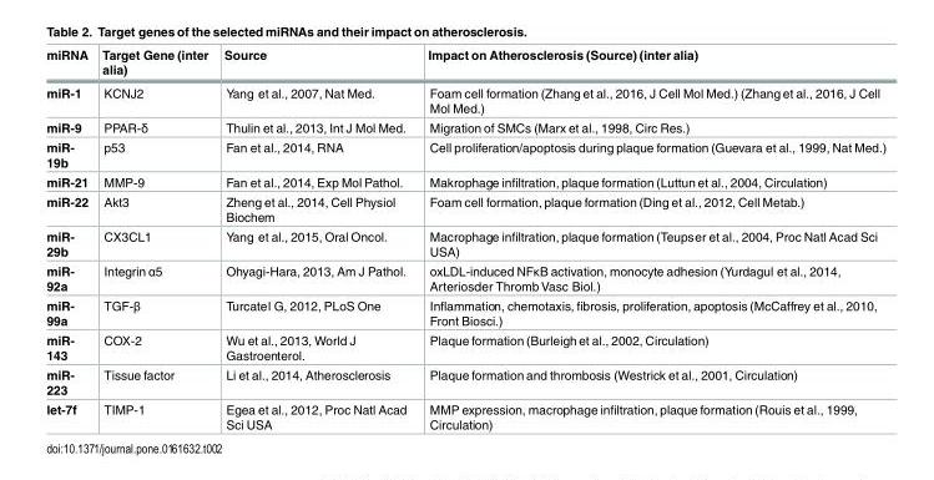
<table><thead><tr><td>miRNA</td><td>Target Gene (inter alia)</td><td>Source</td><td>Impact on Atherosclerosis (Source) (inter alia)</td></tr></thead><tbody><tr><td>miR-1</td><td>KCNJ2</td><td>Yang et al., 2007, Nat Med.</td><td>Foam cell formation (Zhang et al., 2016, J Cell Mol Med.) (Zhang et al., 2016, J Cell Mol Med.)</td></tr><tr><td>miR-9</td><td>PPAR-δ</td><td>Thulin et al., 2013, Int J Mol Med.</td><td>Migration of SMCs (Marx et al., 1998, Circ Res.)</td></tr><tr><td>miR- 19b</td><td>p53</td><td>Fan et al., 2014, RNA</td><td>Cell proliferation/apoptosis during plaque formation (Guevara et al., 1999, Nat Med.)</td></tr><tr><td>miR-21</td><td>MMP-9</td><td>Fan et al., 2014, Exp Mol Pathol.</td><td>Makrophage infiltration, plaque formation (Luttun et al., 2004, Circulation)</td></tr><tr><td>miR-22</td><td>Akt3</td><td>Zheng et al., 2014, Cell Physiol Biochem</td><td>Foam cell formation, plaque formation (Ding et al., 2012, Cell Metab.)</td></tr><tr><td>miR- 29b</td><td>CX3CL1</td><td>Yang et al., 2015, Oral Oncol.</td><td>Macrophage infiltration, plaque formation (Teupser et al., 2004, Proc Natl Acad Sci USA)</td></tr><tr><td>miR- 92a</td><td>Integrin α5</td><td>Ohyagi-Hara, 2013, Am J Pathol.</td><td>oxLDL-induced NFκB activation, monocyte adhesion (Yurdagul et al., 2014, Arterioscler Thromb Vasc Biol.)</td></tr><tr><td>miR- 99a</td><td>TGF-β</td><td>Turcatel G, 2012, PLoS One</td><td>Inflammation, chemotaxis, fibrosis, proliferation, apoptosis (McCaffrey et al., 2010, Front Biosci.)</td></tr><tr><td>miR- 143</td><td>COX-2</td><td>Wu et al., 2013, World J Gastroenterol.</td><td>Plaque formation (Burleigh et al., 2002, Circulation)</td></tr><tr><td>miR- 223</td><td>Tissue factor</td><td>Li et al., 2014, Atherosclerosis</td><td>Plaque formation and thrombosis (Westrick et al., 2001, Circulation)</td></tr><tr><td>let-7f</td><td>TIMP-1</td><td>Egea et al., 2012, Proc Natl Acad Sci USA</td><td>MMP expression, macrophage infiltration, plaque formation (Rouis et al., 1999, Circulation)</td></tr></tbody></table>